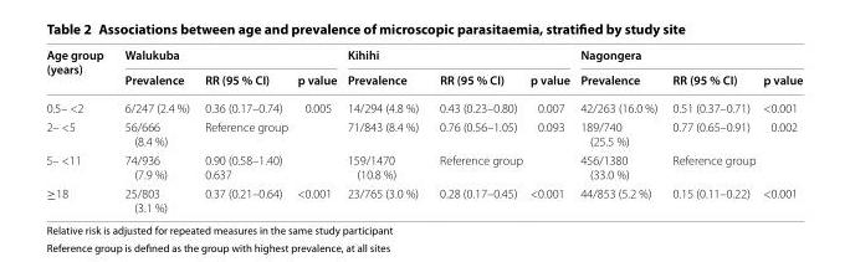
<table><thead><tr><td rowspan="2">Age group (years)</td><td colspan="3">Walukuba</td><td colspan="3">Kihihi</td><td colspan="3">Nagongera</td></tr><tr><td>Prevalence</td><td>RR (95 % CI)</td><td>p value</td><td>Prevalence</td><td>RR (95 % CI)</td><td>p value</td><td>Prevalence</td><td>RR (95 % CI)</td><td>p value</td></tr></thead><tbody><tr><td>0.5– &lt;2</td><td>6/247 (2.4 %)</td><td>0.36 (0.17–0.74)</td><td>0.005</td><td>14/294 (4.8 %)</td><td>0.43 (0.23–0.80)</td><td>0.007</td><td>42/263 (16.0 %)</td><td>0.51 (0.37–0.71)</td><td>&lt;0.001</td></tr><tr><td>2– &lt;5</td><td>56/666 (8.4 %)</td><td>Reference group</td><td></td><td>71/843 (8.4 %)</td><td>0.76 (0.56–1.05)</td><td>0.093</td><td>189/740 (25.5 %)</td><td>0.77 (0.65–0.91)</td><td>0.002</td></tr><tr><td>5– &lt;11</td><td>74/936 (7.9 %)</td><td colspan="2">0.90 (0.58–1.40) 0.637</td><td>159/1470 (10.8 %)</td><td colspan="2">Reference group</td><td>456/1380 (33.0 %)</td><td colspan="2">Reference group</td></tr><tr><td>≥18</td><td>25/803 (3.1 %)</td><td>0.37 (0.21–0.64)</td><td>&lt;0.001</td><td>23/765 (3.0 %)</td><td>0.28 (0.17–0.45)</td><td>&lt;0.001</td><td>44/853 (5.2 %)</td><td>0.15 (0.11–0.22)</td><td>&lt;0.001</td></tr></tbody></table>